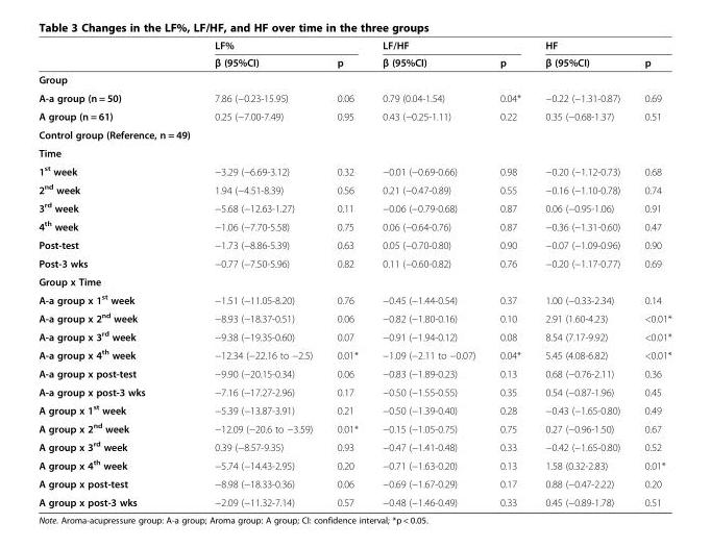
<table><thead><tr><td rowspan="2"></td><td colspan="2">LF%</td><td colspan="2">LF/HF</td><td colspan="2">HF</td></tr><tr><td>β (95%CI)</td><td>p</td><td>β (95%CI)</td><td>p</td><td>β (95%CI)</td><td>p</td></tr></thead><tbody><tr><td colspan="7">Group</td></tr><tr><td>A-a group (n = 50)</td><td>7.86 (−0.23-15.95)</td><td>0.06</td><td>0.79 (0.04-1.54)</td><td>0.04*</td><td>−0.22 (−1.31-0.87)</td><td>0.69</td></tr><tr><td>A group (n = 61)</td><td>0.25 (−7.00-7.49)</td><td>0.95</td><td>0.43 (−0.25-1.11)</td><td>0.22</td><td>0.35 (−0.68-1.37)</td><td>0.51</td></tr><tr><td colspan="7">Control group (Reference, n = 49)</td></tr><tr><td colspan="7">Time</td></tr><tr><td>1<sup>st</sup> week</td><td>−3.29 (−6.69-3.12)</td><td>0.32</td><td>−0.01 (−0.69-0.66)</td><td>0.98</td><td>−0.20 (−1.12-0.73)</td><td>0.68</td></tr><tr><td>2<sup>nd</sup> week</td><td>1.94 (−4.51-8.39)</td><td>0.56</td><td>0.21 (−0.47-0.89)</td><td>0.55</td><td>−0.16 (−1.10-0.78)</td><td>0.74</td></tr><tr><td>3<sup>rd</sup> week</td><td>−5.68 (−12.63-1.27)</td><td>0.11</td><td>−0.06 (−0.79-0.68)</td><td>0.87</td><td>0.06 (−0.95-1.06)</td><td>0.91</td></tr><tr><td>4<sup>th</sup> week</td><td>−1.06 (−7.70-5.58)</td><td>0.75</td><td>0.06 (−0.64-0.76)</td><td>0.87</td><td>−0.36 (−1.31-0.60)</td><td>0.47</td></tr><tr><td>Post-test</td><td>−1.73 (−8.86-5.39)</td><td>0.63</td><td>0.05 (−0.70-0.80)</td><td>0.90</td><td>−0.07 (−1.09-0.96)</td><td>0.90</td></tr><tr><td>Post-3 wks</td><td>−0.77 (−7.50-5.96)</td><td>0.82</td><td>0.11 (−0.60-0.82)</td><td>0.76</td><td>−0.20 (−1.17-0.77)</td><td>0.69</td></tr><tr><td colspan="7">Group x Time</td></tr><tr><td>A-a group x 1<sup>st</sup> week</td><td>−1.51 (−11.05-8.20)</td><td>0.76</td><td>−0.45 (−1.44-0.54)</td><td>0.37</td><td>1.00 (−0.33-2.34)</td><td>0.14</td></tr><tr><td>A-a group x 2<sup>nd</sup> week</td><td>−8.93 (−18.37-0.51)</td><td>0.06</td><td>−0.82 (−1.80-0.16)</td><td>0.10</td><td>2.91 (1.60-4.23)</td><td>&lt;0.01*</td></tr><tr><td>A-a group x 3<sup>rd</sup> week</td><td>−9.38 (−19.35-0.60)</td><td>0.07</td><td>−0.91 (−1.94-0.12)</td><td>0.08</td><td>8.54 (7.17-9.92)</td><td>&lt;0.01*</td></tr><tr><td>A-a group x 4<sup>th</sup> week</td><td>−12.34 (−22.16 to −2.5)</td><td>0.01*</td><td>−1.09 (−2.11 to −0.07)</td><td>0.04*</td><td>5.45 (4.08-6.82)</td><td>&lt;0.01*</td></tr><tr><td>A-a group x post-test</td><td>−9.90 (−20.15-0.34)</td><td>0.06</td><td>−0.83 (−1.89-0.23)</td><td>0.13</td><td>0.68 (−0.76-2.11)</td><td>0.36</td></tr><tr><td>A-a group x post-3 wks</td><td>−7.16 (−17.27-2.96)</td><td>0.17</td><td>−0.50 (−1.55-0.55)</td><td>0.35</td><td>0.54 (−0.87-1.96)</td><td>0.45</td></tr><tr><td>A group x 1<sup>st</sup> week</td><td>−5.39 (−13.87-3.91)</td><td>0.21</td><td>−0.50 (−1.39-0.40)</td><td>0.28</td><td>−0.43 (−1.65-0.80)</td><td>0.49</td></tr><tr><td>A group x 2<sup>nd</sup> week</td><td>−12.09 (−20.6 to −3.59)</td><td>0.01*</td><td>−0.15 (−1.05-0.75)</td><td>0.75</td><td>0.27 (−0.96-1.50)</td><td>0.67</td></tr><tr><td>A group x 3<sup>rd</sup> week</td><td>0.39 (−8.57-9.35)</td><td>0.93</td><td>−0.47 (−1.41-0.48)</td><td>0.33</td><td>−0.42 (−1.65-0.80)</td><td>0.52</td></tr><tr><td>A group x 4<sup>th</sup> week</td><td>−5.74 (−14.43-2.95)</td><td>0.20</td><td>−0.71 (−1.63-0.20)</td><td>0.13</td><td>1.58 (0.32-2.83)</td><td>0.01*</td></tr><tr><td>A group x post-test</td><td>−8.98 (−18.33-0.36)</td><td>0.06</td><td>−0.69 (−1.67-0.29)</td><td>0.17</td><td>0.88 (−0.47-2.22)</td><td>0.20</td></tr><tr><td>A group x post-3 wks</td><td>−2.09 (−11.32-7.14)</td><td>0.57</td><td>−0.48 (−1.46-0.49)</td><td>0.33</td><td>0.45 (−0.89-1.78)</td><td>0.51</td></tr></tbody></table>